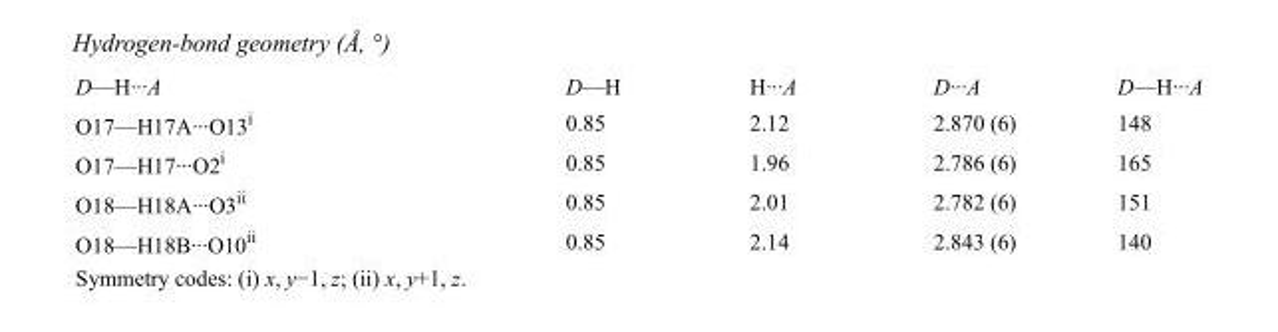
<table><tbody><tr><td>D—H···A</td><td>D—H</td><td>H···A</td><td>D···A</td><td>D—H···A</td></tr><tr><td>O17—H17A···O13<sup>i</sup></td><td>0.85</td><td>2.12</td><td>2.870 (6)</td><td>148</td></tr><tr><td>O17—H17···O2<sup>i</sup></td><td>0.85</td><td>1.96</td><td>2.786 (6)</td><td>165</td></tr><tr><td>O18—H18A···O3<sup>ii</sup></td><td>0.85</td><td>2.01</td><td>2.782 (6)</td><td>151</td></tr><tr><td>O18—H18B···O10<sup>ii</sup></td><td>0.85</td><td>2.14</td><td>2.843 (6)</td><td>140</td></tr></tbody></table>